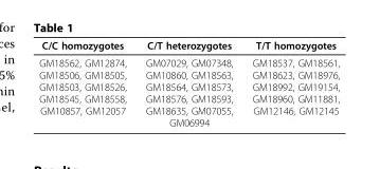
<table><thead><tr><td>C/C homozygotes</td><td>C/T heterozygotes</td><td>T/T homozygotes</td></tr></thead><tbody><tr><td>GM18562, GM12874, GM18506, GM18505, GM18503, GM18526, GM18545, GM18558, GM10857, GM12057</td><td>GM07029, GM07348, GM10860, GM18563, GM18564, GM18573, GM18576, GM18593, GM18635, GM07055, GM06994</td><td>GM18537, GM18561, GM18623, GM18976, GM18992, GM19154, GM18960, GM11881, GM12146, GM12145</td></tr></tbody></table>